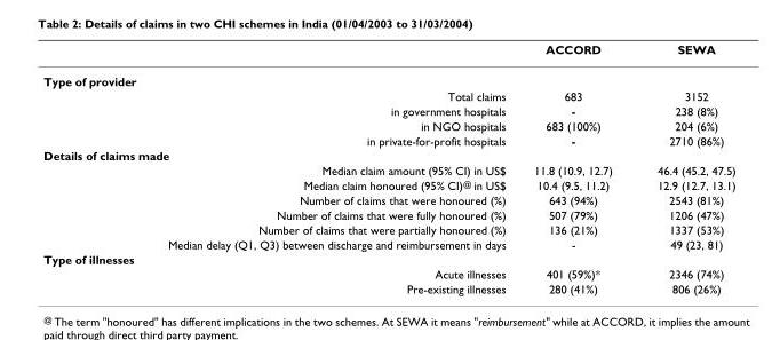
<table><thead><tr><td></td><td>ACCORD</td><td>SEWA</td></tr></thead><tbody><tr><td colspan="3">Type of provider</td></tr><tr><td>Total claims</td><td>683</td><td>3152</td></tr><tr><td>in government hospitals</td><td>-</td><td>238 (8%)</td></tr><tr><td>in NGO hospitals</td><td>683 (100%)</td><td>204 (6%)</td></tr><tr><td>in private-for-profit hospitals</td><td>-</td><td>2710 (86%)</td></tr><tr><td colspan="3">Details of claims made</td></tr><tr><td>Median claim amount (95% CI) in US$</td><td>11.8 (10.9, 12.7)</td><td>46.4 (45.2, 47.5)</td></tr><tr><td>Median claim honoured (95% CI)<sup>@</sup> in US$</td><td>10.4 (9.5, 11.2)</td><td>12.9 (12.7, 13.1)</td></tr><tr><td>Number of claims that were honoured (%)</td><td>643 (94%)</td><td>2543 (81%)</td></tr><tr><td>Number of claims that were fully honoured (%)</td><td>507 (79%)</td><td>1206 (47%)</td></tr><tr><td>Number of claims that were partially honoured (%)</td><td>136 (21%)</td><td>1337 (53%)</td></tr><tr><td>Median delay (Q1, Q3) between discharge and reimbursement in days</td><td>-</td><td>49 (23, 81)</td></tr><tr><td colspan="3">Type of illnesses</td></tr><tr><td>Acute illnesses</td><td>401 (59%)*</td><td>2346 (74%)</td></tr><tr><td>Pre-existing illnesses</td><td>280 (41%)</td><td>806 (26%)</td></tr></tbody></table>